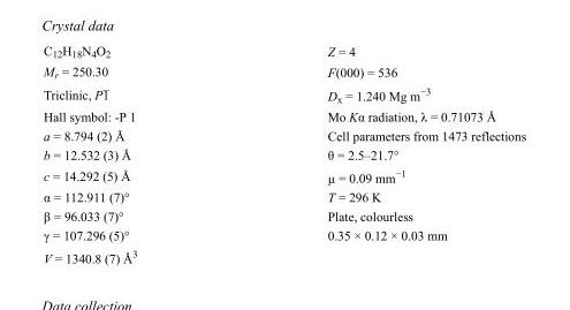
<table><tbody><tr><td>C<sub>12</sub>H<sub>18</sub>N<sub>4</sub>O<sub>2</sub></td><td>Z = 4</td></tr><tr><td>M<sub>r</sub> = 250.30</td><td>F(000) = 536</td></tr><tr><td>Triclinic, P1</td><td>D<sub>x</sub> = 1.240 Mg m<sup>−3</sup></td></tr><tr><td>Hall symbol: -P 1</td><td>Mo Kα radiation, λ = 0.71073 Å</td></tr><tr><td>a = 8.794 (2) Å</td><td>Cell parameters from 1473 reflections</td></tr><tr><td>b = 12.532 (3) Å</td><td>θ = 2.5–21.7°</td></tr><tr><td>c = 14.292 (5) Å</td><td>µ = 0.09 mm<sup>−1</sup></td></tr><tr><td>α = 112.911 (7)°</td><td>T = 296 K</td></tr><tr><td>β = 96.033 (7)°</td><td>Plate, colourless</td></tr><tr><td>γ = 107.296 (5)°</td><td>0.35 × 0.12 × 0.03 mm</td></tr><tr><td>V = 1340.8 (7) Å<sup>3</sup></td><td></td></tr></tbody></table>